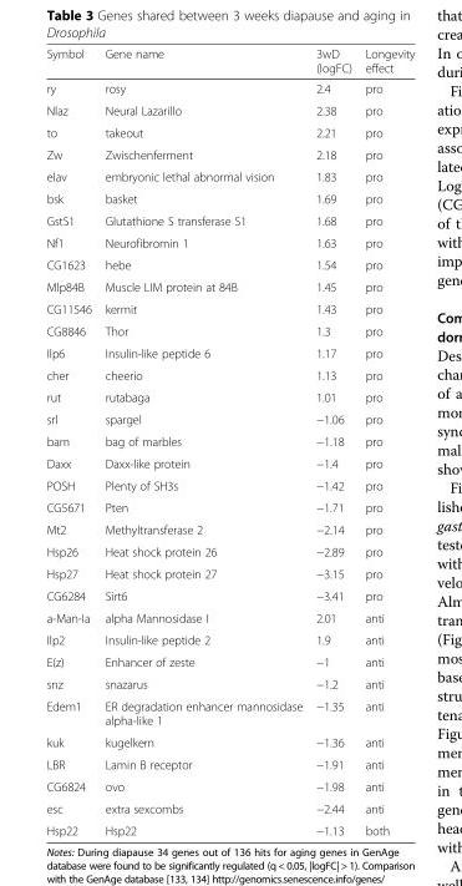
<table><thead><tr><td>Symbol</td><td>Gene name</td><td>3wD (logFC)</td><td>Longevity effect</td></tr></thead><tbody><tr><td>ry</td><td>rosy</td><td>2.4</td><td>pro</td></tr><tr><td>Nlaz</td><td>Neural Lazarillo</td><td>2.38</td><td>pro</td></tr><tr><td>to</td><td>takeout</td><td>2.21</td><td>pro</td></tr><tr><td>Zw</td><td>Zwischenferment</td><td>2.18</td><td>pro</td></tr><tr><td>elav</td><td>embryonic lethal abnormal vision</td><td>1.83</td><td>pro</td></tr><tr><td>bsk</td><td>basket</td><td>1.69</td><td>pro</td></tr><tr><td>GstS1</td><td>Glutathione S transferase S1</td><td>1.68</td><td>pro</td></tr><tr><td>Nf1</td><td>Neurofibromin 1</td><td>1.63</td><td>pro</td></tr><tr><td>CG1623</td><td>hebe</td><td>1.54</td><td>pro</td></tr><tr><td>Mlp84B</td><td>Muscle LIM protein at 84B</td><td>1.45</td><td>pro</td></tr><tr><td>CG11546</td><td>kermit</td><td>1.43</td><td>pro</td></tr><tr><td>CG8846</td><td>Thor</td><td>1.3</td><td>pro</td></tr><tr><td>Ilp6</td><td>Insulin-like peptide 6</td><td>1.17</td><td>pro</td></tr><tr><td>cher</td><td>cheerio</td><td>1.13</td><td>pro</td></tr><tr><td>rut</td><td>rutabaga</td><td>1.01</td><td>pro</td></tr><tr><td>srl</td><td>spargel</td><td>−1.06</td><td>pro</td></tr><tr><td>bam</td><td>bag of marbles</td><td>−1.18</td><td>pro</td></tr><tr><td>Daxx</td><td>Daxx-like protein</td><td>−1.4</td><td>pro</td></tr><tr><td>POSH</td><td>Plenty of SH3s</td><td>−1.42</td><td>pro</td></tr><tr><td>CG5671</td><td>Pten</td><td>−1.71</td><td>pro</td></tr><tr><td>Mt2</td><td>Methyltransferase 2</td><td>−2.14</td><td>pro</td></tr><tr><td>Hsp26</td><td>Heat shock protein 26</td><td>−2.89</td><td>pro</td></tr><tr><td>Hsp27</td><td>Heat shock protein 27</td><td>−3.15</td><td>pro</td></tr><tr><td>CG6284</td><td>Sirt6</td><td>−3.41</td><td>pro</td></tr><tr><td>a-Man-Ia</td><td>alpha Mannosidase I</td><td>2.01</td><td>anti</td></tr><tr><td>Ilp2</td><td>Insulin-like peptide 2</td><td>1.9</td><td>anti</td></tr><tr><td>E(z)</td><td>Enhancer of zeste</td><td>−1</td><td>anti</td></tr><tr><td>snz</td><td>snazarus</td><td>−1.2</td><td>anti</td></tr><tr><td>Edem1</td><td>ER degradation enhancer mannosidase alpha-like 1</td><td>−1.35</td><td>anti</td></tr><tr><td>kuk</td><td>kugelkern</td><td>−1.36</td><td>anti</td></tr><tr><td>LBR</td><td>Lamin B receptor</td><td>−1.91</td><td>anti</td></tr><tr><td>CG6824</td><td>ovo</td><td>−1.98</td><td>anti</td></tr><tr><td>esc</td><td>extra sexcombs</td><td>−2.44</td><td>anti</td></tr><tr><td>Hsp22</td><td>Hsp22</td><td>−1.13</td><td>both</td></tr></tbody></table>